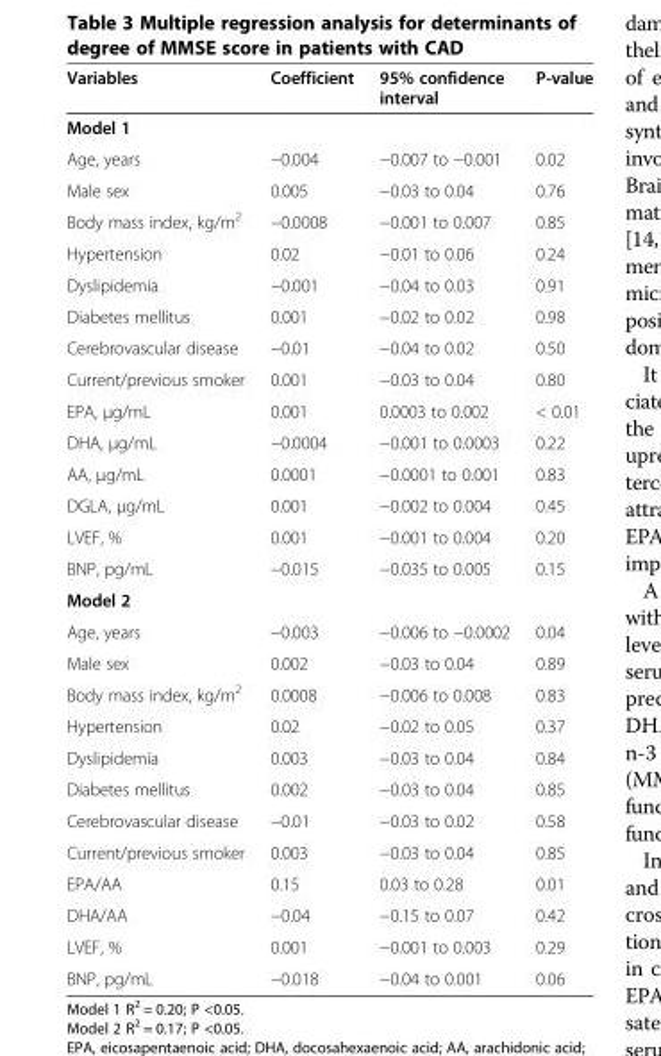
<table><thead><tr><td>Variables</td><td>Coefficient</td><td>95% confidence interval</td><td>P-value</td></tr></thead><tbody><tr><td colspan="4">Model 1</td></tr><tr><td>Age, years</td><td>−0.004</td><td>−0.007 to −0.001</td><td>0.02</td></tr><tr><td>Male sex</td><td>0.005</td><td>−0.03 to 0.04</td><td>0.76</td></tr><tr><td>Body mass index, kg/m<sup>2</sup></td><td>−0.0008</td><td>−0.001 to 0.007</td><td>0.85</td></tr><tr><td>Hypertension</td><td>0.02</td><td>−0.01 to 0.06</td><td>0.24</td></tr><tr><td>Dyslipidemia</td><td>−0.001</td><td>−0.04 to 0.03</td><td>0.91</td></tr><tr><td>Diabetes mellitus</td><td>0.001</td><td>−0.02 to 0.02</td><td>0.98</td></tr><tr><td>Cerebrovascular disease</td><td>−0.01</td><td>−0.04 to 0.02</td><td>0.50</td></tr><tr><td>Current/previous smoker</td><td>0.001</td><td>−0.03 to 0.04</td><td>0.80</td></tr><tr><td>EPA, μg/mL</td><td>0.001</td><td>0.0003 to 0.002</td><td>&lt; 0.01</td></tr><tr><td>DHA, μg/mL</td><td>−0.0004</td><td>−0.001 to 0.0003</td><td>0.22</td></tr><tr><td>AA, μg/mL</td><td>0.0001</td><td>−0.0001 to 0.001</td><td>0.83</td></tr><tr><td>DGLA, μg/mL</td><td>0.001</td><td>−0.002 to 0.004</td><td>0.45</td></tr><tr><td>LVEF, %</td><td>0.001</td><td>−0.001 to 0.004</td><td>0.20</td></tr><tr><td>BNP, pg/mL</td><td>−0.015</td><td>−0.035 to 0.005</td><td>0.15</td></tr><tr><td colspan="4">Model 2</td></tr><tr><td>Age, years</td><td>−0.003</td><td>−0.006 to −0.0002</td><td>0.04</td></tr><tr><td>Male sex</td><td>0.002</td><td>−0.03 to 0.04</td><td>0.89</td></tr><tr><td>Body mass index, kg/m<sup>2</sup></td><td>0.0008</td><td>−0.006 to 0.008</td><td>0.83</td></tr><tr><td>Hypertension</td><td>0.02</td><td>−0.02 to 0.05</td><td>0.37</td></tr><tr><td>Dyslipidemia</td><td>0.003</td><td>−0.03 to 0.04</td><td>0.84</td></tr><tr><td>Diabetes mellitus</td><td>0.002</td><td>−0.03 to 0.04</td><td>0.85</td></tr><tr><td>Cerebrovascular disease</td><td>−0.01</td><td>−0.03 to 0.02</td><td>0.58</td></tr><tr><td>Current/previous smoker</td><td>0.003</td><td>−0.03 to 0.04</td><td>0.85</td></tr><tr><td>EPA/AA</td><td>0.15</td><td>0.03 to 0.28</td><td>0.01</td></tr><tr><td>DHA/AA</td><td>−0.04</td><td>−0.15 to 0.07</td><td>0.42</td></tr><tr><td>LVEF, %</td><td>0.001</td><td>−0.001 to 0.003</td><td>0.29</td></tr><tr><td>BNP, pg/mL</td><td>−0.018</td><td>−0.04 to 0.001</td><td>0.06</td></tr></tbody></table>